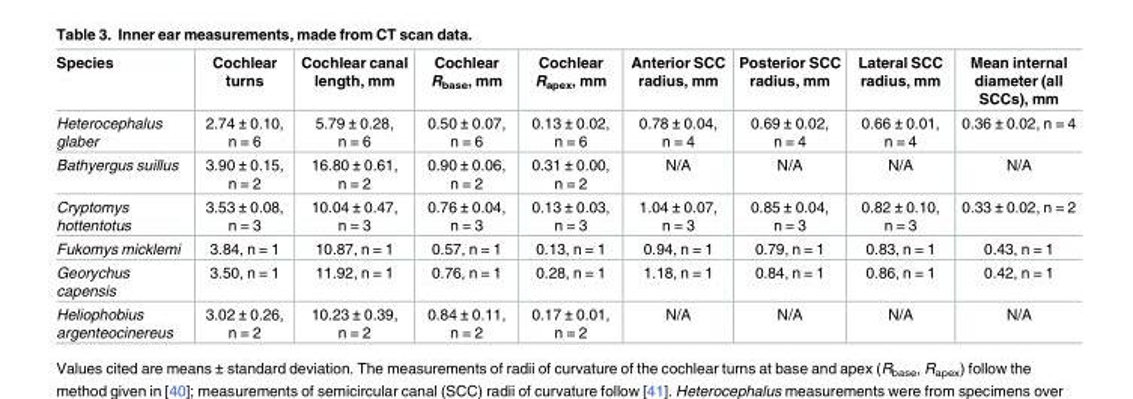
<table><thead><tr><td>Species</td><td>Cochlear turns</td><td>Cochlear canal length, mm</td><td>Cochlear R<sub>base</sub>, mm</td><td>Cochlear R<sub>apex</sub>, mm</td><td>Anterior SCC radius, mm</td><td>Posterior SCC radius, mm</td><td>Lateral SCC radius, mm</td><td>Mean internal diameter (all SCCs), mm</td></tr></thead><tbody><tr><td>Heterocephalus glaber</td><td>2.74 ± 0.10, n = 6</td><td>5.79 ± 0.28, n = 6</td><td>0.50 ± 0.07, n = 6</td><td>0.13 ± 0.02, n = 6</td><td>0.78 ± 0.04, n = 4</td><td>0.69 ± 0.02, n = 4</td><td>0.66 ± 0.01, n = 4</td><td>0.36 ± 0.02, n = 4</td></tr><tr><td>Bathyergus suillus</td><td>3.90 ± 0.15, n = 2</td><td>16.80 ± 0.61, n = 2</td><td>0.90 ± 0.06, n = 2</td><td>0.31 ± 0.00, n = 2</td><td>N/A</td><td>N/A</td><td>N/A</td><td>N/A</td></tr><tr><td>Cryptomys hottentotus</td><td>3.53 ± 0.08, n = 3</td><td>10.04 ± 0.47, n = 3</td><td>0.76 ± 0.04, n = 3</td><td>0.13 ± 0.03, n = 3</td><td>1.04 ± 0.07, n = 3</td><td>0.85 ± 0.04, n = 3</td><td>0.82 ± 0.10, n = 3</td><td>0.33 ± 0.02, n = 2</td></tr><tr><td>Fukomys micklemi</td><td>3.84, n = 1</td><td>10.87, n = 1</td><td>0.57, n = 1</td><td>0.13, n = 1</td><td>0.94, n = 1</td><td>0.79, n = 1</td><td>0.83, n = 1</td><td>0.43, n = 1</td></tr><tr><td>Georychus capensis</td><td>3.50, n = 1</td><td>11.92, n = 1</td><td>0.76, n = 1</td><td>0.28, n = 1</td><td>1.18, n = 1</td><td>0.84, n = 1</td><td>0.86, n = 1</td><td>0.42, n = 1</td></tr><tr><td>Heliophobius argenteocinereus</td><td>3.02 ± 0.26, n = 2</td><td>10.23 ± 0.39, n = 2</td><td>0.84 ± 0.11, n = 2</td><td>0.17 ± 0.01, n = 2</td><td>N/A</td><td>N/A</td><td>N/A</td><td>N/A</td></tr></tbody></table>